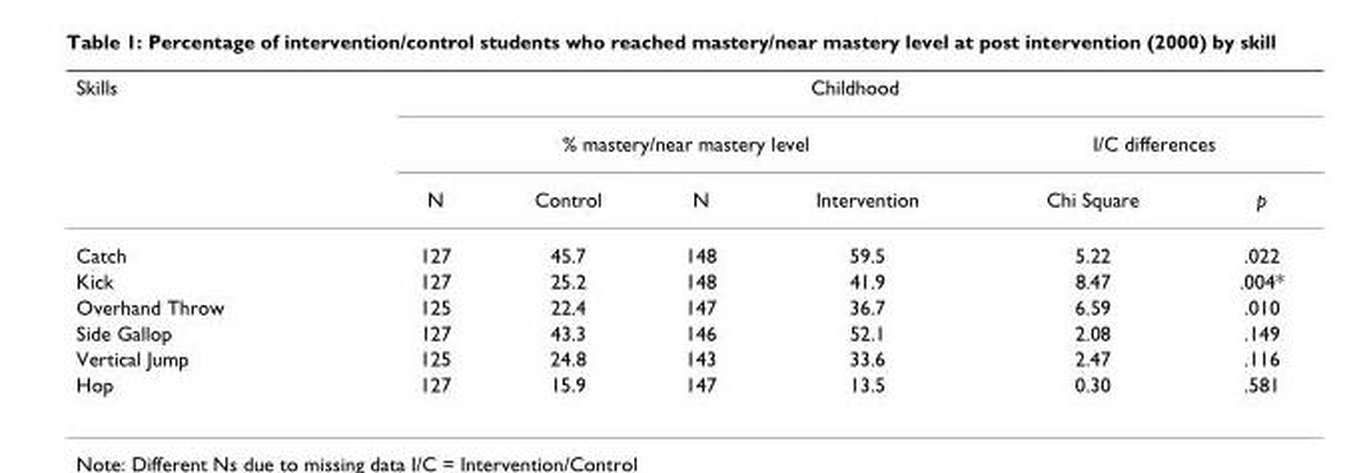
<table><thead><tr><td rowspan="3">Skills</td><td colspan="6">Childhood</td></tr><tr><td colspan="4">% mastery/near mastery level</td><td colspan="2">I/C differences</td></tr><tr><td>N</td><td>Control</td><td>N</td><td>Intervention</td><td>Chi Square</td><td>p</td></tr></thead><tbody><tr><td>Catch</td><td>127</td><td>45.7</td><td>148</td><td>59.5</td><td>5.22</td><td>.022</td></tr><tr><td>Kick</td><td>127</td><td>25.2</td><td>148</td><td>41.9</td><td>8.47</td><td>.004*</td></tr><tr><td>Overhand Throw</td><td>125</td><td>22.4</td><td>147</td><td>36.7</td><td>6.59</td><td>.010</td></tr><tr><td>Side Gallop</td><td>127</td><td>43.3</td><td>146</td><td>52.1</td><td>2.08</td><td>.149</td></tr><tr><td>Vertical Jump</td><td>125</td><td>24.8</td><td>143</td><td>33.6</td><td>2.47</td><td>.116</td></tr><tr><td>Hop</td><td>127</td><td>15.9</td><td>147</td><td>13.5</td><td>0.30</td><td>.581</td></tr></tbody></table>